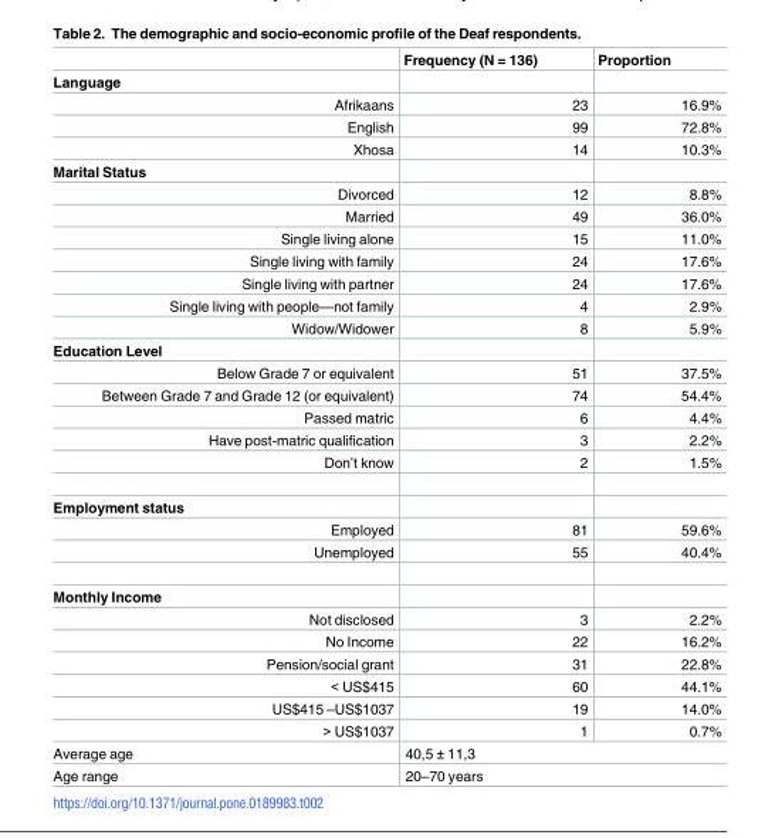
<table><thead><tr><td></td><td>Frequency (N = 136)</td><td>Proportion</td></tr></thead><tbody><tr><td colspan="3">Language</td></tr><tr><td>Afrikaans</td><td>23</td><td>16.9%</td></tr><tr><td>English</td><td>99</td><td>72.8%</td></tr><tr><td>Xhosa</td><td>14</td><td>10.3%</td></tr><tr><td colspan="3">Marital Status</td></tr><tr><td>Divorced</td><td>12</td><td>8.8%</td></tr><tr><td>Married</td><td>49</td><td>36.0%</td></tr><tr><td>Single living alone</td><td>15</td><td>11.0%</td></tr><tr><td>Single living with family</td><td>24</td><td>17.6%</td></tr><tr><td>Single living with partner</td><td>24</td><td>17.6%</td></tr><tr><td>Single living with people—not family</td><td>4</td><td>2.9%</td></tr><tr><td>Widow/Widower</td><td>8</td><td>5.9%</td></tr><tr><td colspan="3">Education Level</td></tr><tr><td>Below Grade 7 or equivalent</td><td>51</td><td>37.5%</td></tr><tr><td>Between Grade 7 and Grade 12 (or equivalent)</td><td>74</td><td>54.4%</td></tr><tr><td>Passed matric</td><td>6</td><td>4.4%</td></tr><tr><td>Have post-matric qualification</td><td>3</td><td>2.2%</td></tr><tr><td>Don’t know</td><td>2</td><td>1.5%</td></tr><tr><td colspan="3">Employment status</td></tr><tr><td>Employed</td><td>81</td><td>59.6%</td></tr><tr><td>Unemployed</td><td>55</td><td>40.4%</td></tr><tr><td colspan="3">Monthly Income</td></tr><tr><td>Not disclosed</td><td>3</td><td>2.2%</td></tr><tr><td>No Income</td><td>22</td><td>16.2%</td></tr><tr><td>Pension/social grant</td><td>31</td><td>22.8%</td></tr><tr><td>&lt; US$415</td><td>60</td><td>44.1%</td></tr><tr><td>US$415 –US$1037</td><td>19</td><td>14.0%</td></tr><tr><td>&gt; US$1037</td><td>1</td><td>0.7%</td></tr><tr><td>Average age</td><td colspan="2">40,5 ± 11,3</td></tr><tr><td>Age range</td><td colspan="2">20–70 years</td></tr></tbody></table>